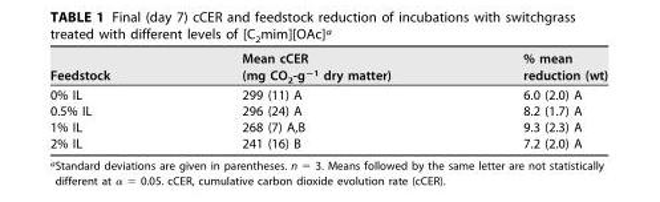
<table><thead><tr><td>Feedstock</td><td>Mean cCER (mg CO<sub>2</sub>-g<sup>−1</sup> dry matter)</td><td>% mean reduction (wt)</td></tr></thead><tbody><tr><td>0% IL</td><td>299 (11) A</td><td>6.0 (2.0) A</td></tr><tr><td>0.5% IL</td><td>296 (24) A</td><td>8.2 (1.7) A</td></tr><tr><td>1% IL</td><td>268 (7) A,B</td><td>9.3 (2.3) A</td></tr><tr><td>2% IL</td><td>241 (16) B</td><td>7.2 (2.0) A</td></tr></tbody></table>